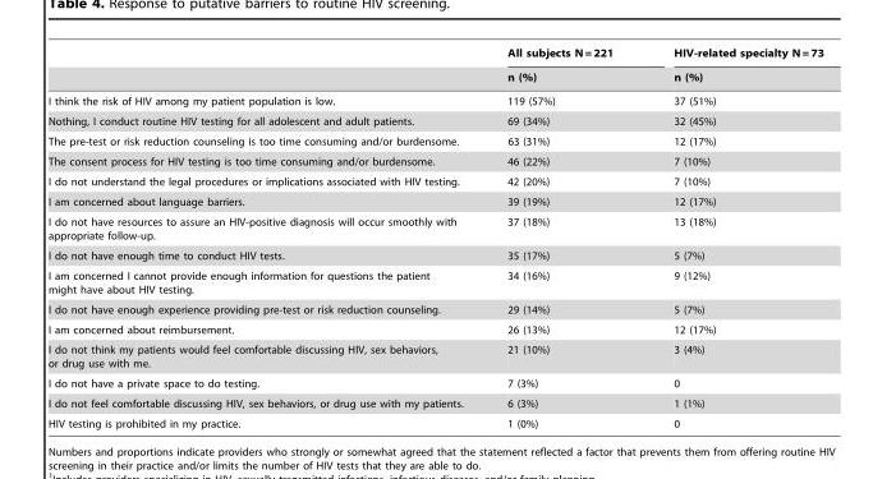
<table><thead><tr><td rowspan="2"></td><td rowspan="2">All subjects N = 221 n (%)</td><td rowspan="2">HIV-related specialty N = 73 n (%)</td></tr><tr></tr></thead><tbody><tr><td>I think the risk of HIV among my patient population is low.</td><td>119 (57%)</td><td>37 (51%)</td></tr><tr><td>Nothing, I conduct routine HIV testing for all adolescent and adult patients.</td><td>69 (34%)</td><td>32 (45%)</td></tr><tr><td>The pre-test or risk reduction counseling is too time consuming and/or burdensome.</td><td>63 (31%)</td><td>12 (17%)</td></tr><tr><td>The consent process for HIV testing is too time consuming and/or burdensome.</td><td>46 (22%)</td><td>7 (10%)</td></tr><tr><td>I do not understand the legal procedures or implications associated with HIV testing.</td><td>42 (20%)</td><td>7 (10%)</td></tr><tr><td>I am concerned about language barriers.</td><td>39 (19%)</td><td>12 (17%)</td></tr><tr><td>I do not have resources to assure an HIV-positive diagnosis will occur smoothly with appropriate follow-up.</td><td>37 (18%)</td><td>13 (18%)</td></tr><tr><td>I do not have enough time to conduct HIV tests.</td><td>35 (17%)</td><td>5 (7%)</td></tr><tr><td>I am concerned I cannot provide enough information for questions the patient might have about HIV testing.</td><td>34 (16%)</td><td>9 (12%)</td></tr><tr><td>I do not have enough experience providing pre-test or risk reduction counseling.</td><td>29 (14%)</td><td>5 (7%)</td></tr><tr><td>I am concerned about reimbursement.</td><td>26 (13%)</td><td>12 (17%)</td></tr><tr><td>I do not think my patients would feel comfortable discussing HIV, sex behaviors, or drug use with me.</td><td>21 (10%)</td><td>3 (4%)</td></tr><tr><td>I do not have a private space to do testing.</td><td>7 (3%)</td><td>0</td></tr><tr><td>I do not feel comfortable discussing HIV, sex behaviors, or drug use with my patients.</td><td>6 (3%)</td><td>1 (1%)</td></tr><tr><td>HIV testing is prohibited in my practice.</td><td>1 (0%)</td><td>0</td></tr></tbody></table>